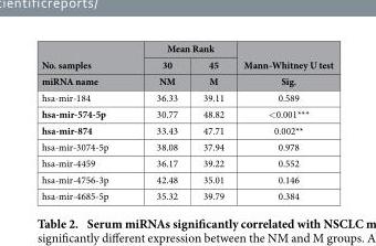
<table><thead><tr><td rowspan="3">No. samples miRNA name</td><td colspan="2">Mean Rank</td><td rowspan="3">Mann-Whitney U test Sig.</td></tr><tr><td rowspan="2">30 NM</td><td rowspan="2">45 M</td></tr><tr></tr></thead><tbody><tr><td>hsa-mir-184</td><td>36.33</td><td>39.11</td><td>0.589</td></tr><tr><td>hsa-mir-574-5p</td><td>30.77</td><td>48.82</td><td>&lt; 0.001***</td></tr><tr><td>hsa-mir-874</td><td>33.43</td><td>47.71</td><td>0.002**</td></tr><tr><td>hsa-mir-3074-5p</td><td>38.08</td><td>37.94</td><td>0.978</td></tr><tr><td>hsa-mir-4459</td><td>36.17</td><td>39.22</td><td>0.552</td></tr><tr><td>hsa-mir-4756-3p</td><td>42.48</td><td>35.01</td><td>0.146</td></tr><tr><td>hsa-mir-4685-5p</td><td>35.32</td><td>39.79</td><td>0.384</td></tr></tbody></table>